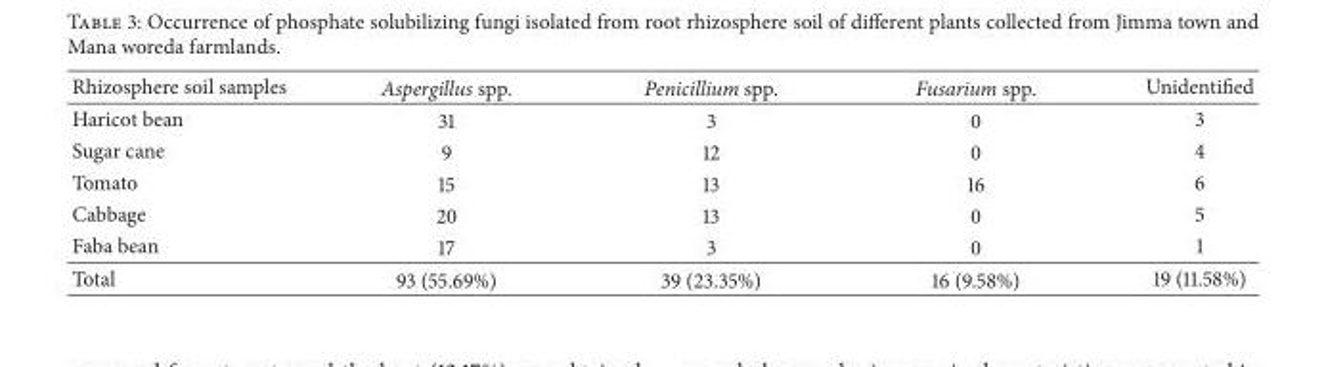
<table><thead><tr><td>Rhizosphere soil samples</td><td>Aspergillus spp.</td><td>Penicillium spp.</td><td>Fusarium spp.</td><td>Unidentified</td></tr></thead><tbody><tr><td>Haricot bean</td><td>31</td><td>3</td><td>0</td><td>3</td></tr><tr><td>Sugar cane</td><td>9</td><td>12</td><td>0</td><td>4</td></tr><tr><td>Tomato</td><td>15</td><td>13</td><td>16</td><td>6</td></tr><tr><td>Cabbage</td><td>20</td><td>13</td><td>0</td><td>5</td></tr><tr><td>Faba bean</td><td>17</td><td>3</td><td>0</td><td>1</td></tr><tr><td>Total</td><td>93 (55.69%)</td><td>39 (23.35%)</td><td>16 (9.58%)</td><td>19 (11.58%)</td></tr></tbody></table>